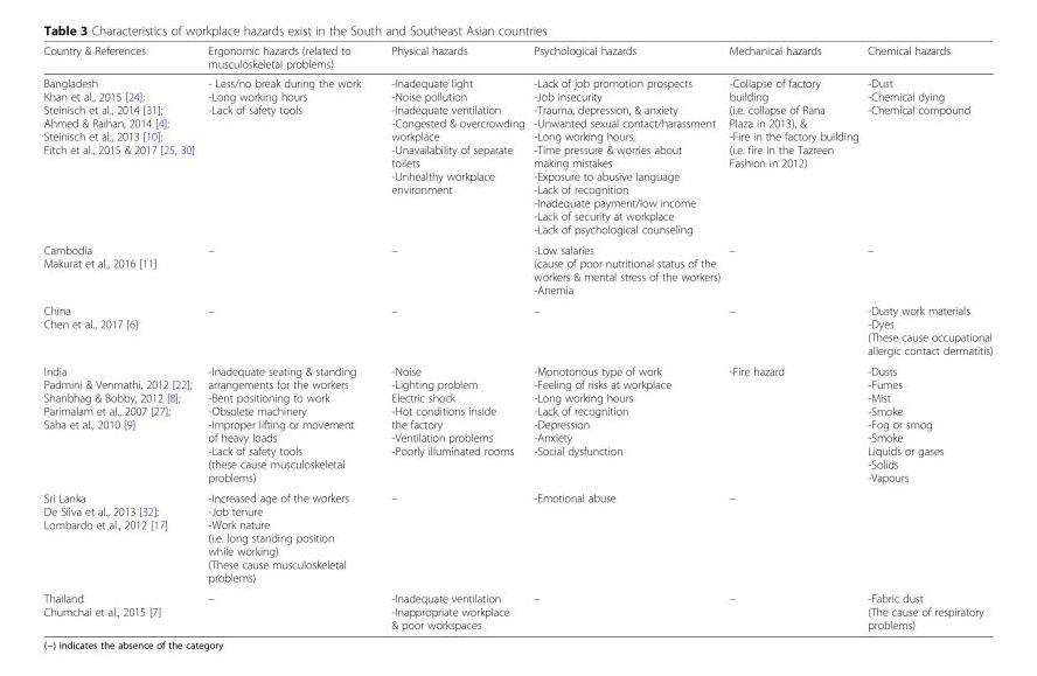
<table><thead><tr><td>Country &amp; References</td><td>Ergonomic hazards (related to musculoskeletal problems)</td><td>Physical hazards</td><td>Psychological hazards</td><td>Mechanical hazards</td><td>Chemical hazards</td></tr></thead><tbody><tr><td>Bangladesh Khan et al., 2015 [24]; Steinisch et al., 2014 [31]; Ahmed &amp; Raihan, 2014 [4]; Steinisch et al., 2013 [10]; Fitch et al., 2015 &amp; 2017 [25, 30]</td><td>- Less/no break during the work -Long working hours -Lack of safety tools</td><td>-Inadequate light -Noise pollution -Inadequate ventilation -Congested &amp; overcrowding workplace -Unavailability of separate toilets -Unhealthy workplace environment</td><td>-Lack of job promotion prospects -Job insecurity -Trauma, depression, &amp; anxiety -Unwanted sexual contact/harassment -Long working hours, -Time pressure &amp; worries about making mistakes -Exposure to abusive language -Lack of recognition -Inadequate payment/low income -Lack of security at workplace -Lack of psychological counseling</td><td>-Collapse of factory building (i.e. collapse of Rana Plaza in 2013), &amp; -Fire in the factory building (i.e. fire in the Tazreen Fashion in 2012)</td><td>-Dust -Chemical dying -Chemical compound</td></tr><tr><td>Cambodia Makurat et al., 2016 [11]</td><td>–</td><td>–</td><td>-Low salaries (cause of poor nutritional status of the workers &amp; mental stress of the workers) -Anemia</td><td>–</td><td>–</td></tr><tr><td>China Chen et al., 2017 [6]</td><td>–</td><td>–</td><td>–</td><td>–</td><td>-Dusty work materials -Dyes (These cause occupational allergic contact dermatitis)</td></tr><tr><td>India Padmini &amp; Venmathi, 2012 [22]; Shanbhag &amp; Bobby, 2012 [8]; Parimalam et al., 2007 [27]; Saha et al., 2010 [9]</td><td>-Inadequate seating &amp; standing arrangements for the workers -Bent positioning to work -Obsolete machinery -Improper lifting or movement of heavy loads -Lack of safety tools (these cause musculoskeletal problems)</td><td>-Noise -Lighting problem Electric shock -Hot conditions inside the factory -Ventilation problems -Poorly illuminated rooms</td><td>-Monotonous type of work -Feeling of risks at workplace -Long working hours -Lack of recognition -Depression -Anxiety -Social dysfunction</td><td>-Fire hazard</td><td>-Dusts -Fumes -Mist -Smoke -Fog or smog -Smoke Liquids or gases -Solids -Vapours</td></tr><tr><td>Sri Lanka De Silva et al., 2013 [32]; Lombardo et al., 2012 [17]</td><td>-Increased age of the workers -Job tenure -Work nature (i.e. long standing position while working) (These cause musculoskeletal problems)</td><td>–</td><td>-Emotional abuse</td><td>–</td><td></td></tr><tr><td>Thailand Chumchai et al., 2015 [7]</td><td>–</td><td>-Inadequate ventilation -Inappropriate workplace &amp; poor workspaces</td><td>–</td><td>–</td><td>-Fabric dust (The cause of respiratory problems)</td></tr></tbody></table>